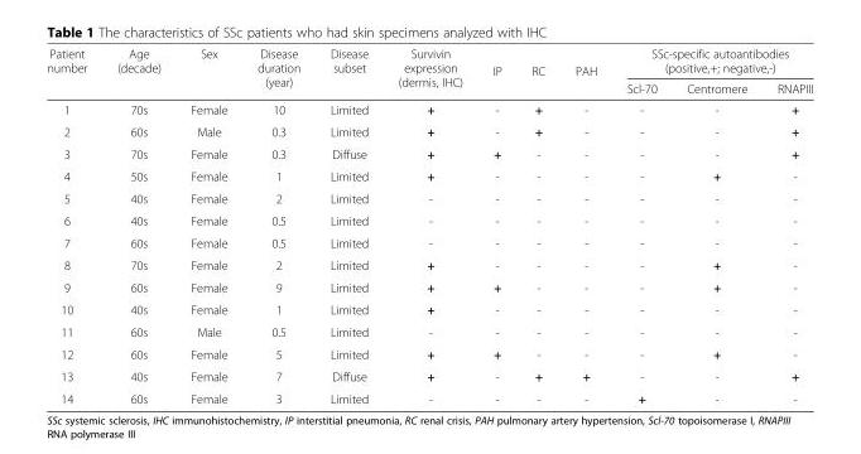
<table><thead><tr><td rowspan="2">Patient number</td><td rowspan="2">Age (decade)</td><td rowspan="2">Sex</td><td rowspan="2">Disease duration (year)</td><td rowspan="2">Disease subset</td><td rowspan="2">Survivin expression (dermis, IHC)</td><td rowspan="2">IP</td><td rowspan="2">RC</td><td rowspan="2">PAH</td><td colspan="3">SSc-specific autoantibodies (positive,+; negative,-)</td></tr><tr><td>Scl-70</td><td>Centromere</td><td>RNAPIII</td></tr></thead><tbody><tr><td>1</td><td>70s</td><td>Female</td><td>10</td><td>Limited</td><td>+</td><td>-</td><td>+</td><td>-</td><td>-</td><td>-</td><td>+</td></tr><tr><td>2</td><td>60s</td><td>Male</td><td>0.3</td><td>Limited</td><td>+</td><td>-</td><td>+</td><td>-</td><td>-</td><td>-</td><td>+</td></tr><tr><td>3</td><td>70s</td><td>Female</td><td>0.3</td><td>Diffuse</td><td>+</td><td>+</td><td>-</td><td>-</td><td>-</td><td>-</td><td>+</td></tr><tr><td>4</td><td>50s</td><td>Female</td><td>1</td><td>Limited</td><td>+</td><td>-</td><td>-</td><td>-</td><td>-</td><td>+</td><td>-</td></tr><tr><td>5</td><td>40s</td><td>Female</td><td>2</td><td>Limited</td><td>-</td><td>-</td><td>-</td><td>-</td><td>-</td><td>-</td><td>-</td></tr><tr><td>6</td><td>40s</td><td>Female</td><td>0.5</td><td>Limited</td><td>-</td><td>-</td><td>-</td><td>-</td><td>-</td><td>-</td><td>-</td></tr><tr><td>7</td><td>60s</td><td>Female</td><td>0.5</td><td>Limited</td><td>-</td><td>-</td><td>-</td><td>-</td><td>-</td><td>-</td><td>-</td></tr><tr><td>8</td><td>70s</td><td>Female</td><td>2</td><td>Limited</td><td>+</td><td>-</td><td>-</td><td>-</td><td>-</td><td>+</td><td>-</td></tr><tr><td>9</td><td>60s</td><td>Female</td><td>9</td><td>Limited</td><td>+</td><td>+</td><td>-</td><td>-</td><td>-</td><td>+</td><td>-</td></tr><tr><td>10</td><td>40s</td><td>Female</td><td>1</td><td>Limited</td><td>+</td><td>-</td><td>-</td><td>-</td><td>-</td><td>-</td><td>-</td></tr><tr><td>11</td><td>60s</td><td>Male</td><td>0.5</td><td>Limited</td><td>-</td><td>-</td><td>-</td><td>-</td><td>-</td><td>-</td><td>-</td></tr><tr><td>12</td><td>60s</td><td>Female</td><td>5</td><td>Limited</td><td>+</td><td>+</td><td>-</td><td>-</td><td>-</td><td>+</td><td>-</td></tr><tr><td>13</td><td>40s</td><td>Female</td><td>7</td><td>Diffuse</td><td>+</td><td>-</td><td>+</td><td>+</td><td>-</td><td>-</td><td>+</td></tr><tr><td>14</td><td>60s</td><td>Female</td><td>3</td><td>Limited</td><td>-</td><td>-</td><td>-</td><td>-</td><td>+</td><td>-</td><td>-</td></tr></tbody></table>